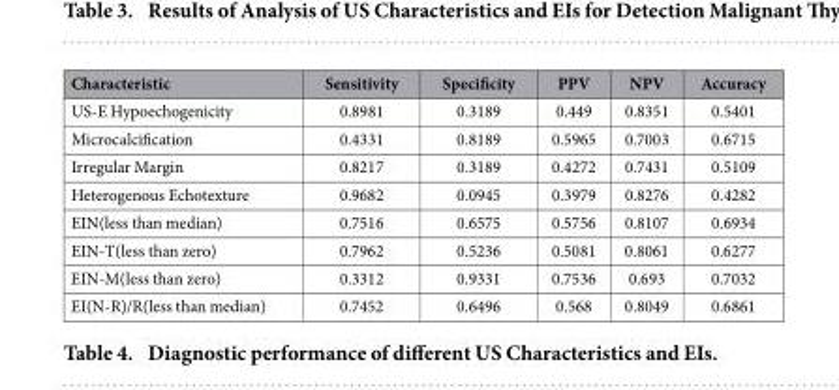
<table><thead><tr><td>Characteristic</td><td>Sensitivity</td><td>Specificity</td><td>PPV</td><td>NPV</td><td>Accuracy</td></tr></thead><tbody><tr><td>US-E Hypoechogenicity</td><td>0.8981</td><td>0.3189</td><td>0.449</td><td>0.8351</td><td>0.5401</td></tr><tr><td>Microcalcification</td><td>0.4331</td><td>0.8189</td><td>0.5965</td><td>0.7003</td><td>0.6715</td></tr><tr><td>Irregular Margin</td><td>0.8217</td><td>0.3189</td><td>0.4272</td><td>0.7431</td><td>0.5109</td></tr><tr><td>Heterogenous Echotexture</td><td>0.9682</td><td>0.0945</td><td>0.3979</td><td>0.8276</td><td>0.4282</td></tr><tr><td>EIN(less than median)</td><td>0.7516</td><td>0.6575</td><td>0.5756</td><td>0.8107</td><td>0.6934</td></tr><tr><td>EIN-T(less than zero)</td><td>0.7962</td><td>0.5236</td><td>0.5081</td><td>0.8061</td><td>0.6277</td></tr><tr><td>EIN-M(less than zero)</td><td>0.3312</td><td>0.9331</td><td>0.7536</td><td>0.693</td><td>0.7032</td></tr><tr><td>EI(N-R)/R(less than median)</td><td>0.7452</td><td>0.6496</td><td>0.568</td><td>0.8049</td><td>0.6861</td></tr></tbody></table>